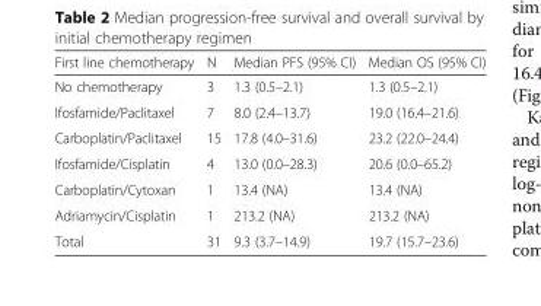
<table><thead><tr><td>First line chemotherapy</td><td>N</td><td>Median PFS (95% CI)</td><td>Median OS (95% CI)</td></tr></thead><tbody><tr><td>No chemotherapy</td><td>3</td><td>1.3 (0.5–2.1)</td><td>1.3 (0.5–2.1)</td></tr><tr><td>Ifosfamide/Paclitaxel</td><td>7</td><td>8.0 (2.4–13.7)</td><td>19.0 (16.4–21.6)</td></tr><tr><td>Carboplatin/Paclitaxel</td><td>15</td><td>17.8 (4.0–31.6)</td><td>23.2 (22.0–24.4)</td></tr><tr><td>Ifosfamide/Cisplatin</td><td>4</td><td>13.0 (0.0–28.3)</td><td>20.6 (0.0–65.2)</td></tr><tr><td>Carboplatin/Cytoxan</td><td>1</td><td>13.4 (NA)</td><td>13.4 (NA)</td></tr><tr><td>Adriamycin/Cisplatin</td><td>1</td><td>213.2 (NA)</td><td>213.2 (NA)</td></tr><tr><td>Total</td><td>31</td><td>9.3 (3.7–14.9)</td><td>19.7 (15.7–23.6)</td></tr></tbody></table>